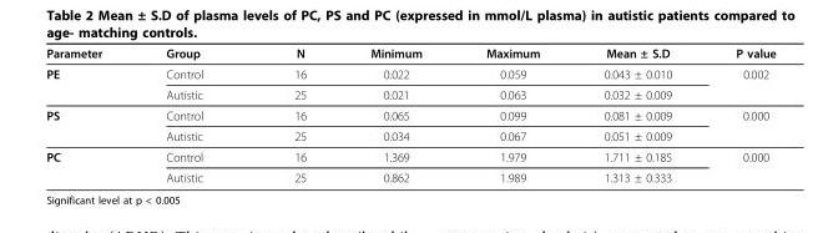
<table><thead><tr><td>Parameter</td><td>Group</td><td>N</td><td>Minimum</td><td>Maximum</td><td>Mean ± S.D</td><td>P value</td></tr></thead><tbody><tr><td rowspan="2">PE</td><td>Control</td><td>16</td><td>0.022</td><td>0.059</td><td>0.043 ± 0.010</td><td>0.002</td></tr><tr><td>Autistic</td><td>25</td><td>0.021</td><td>0.063</td><td>0.032 ± 0.009</td><td></td></tr><tr><td rowspan="2">PS</td><td>Control</td><td>16</td><td>0.065</td><td>0.099</td><td>0.081 ± 0.009</td><td>0.000</td></tr><tr><td>Autistic</td><td>25</td><td>0.034</td><td>0.067</td><td>0.051 ± 0.009</td><td></td></tr><tr><td rowspan="2">PC</td><td>Control</td><td>16</td><td>1.369</td><td>1.979</td><td>1.711 ± 0.185</td><td>0.000</td></tr><tr><td>Autistic</td><td>25</td><td>0.862</td><td>1.989</td><td>1.313 ± 0.333</td><td></td></tr></tbody></table>